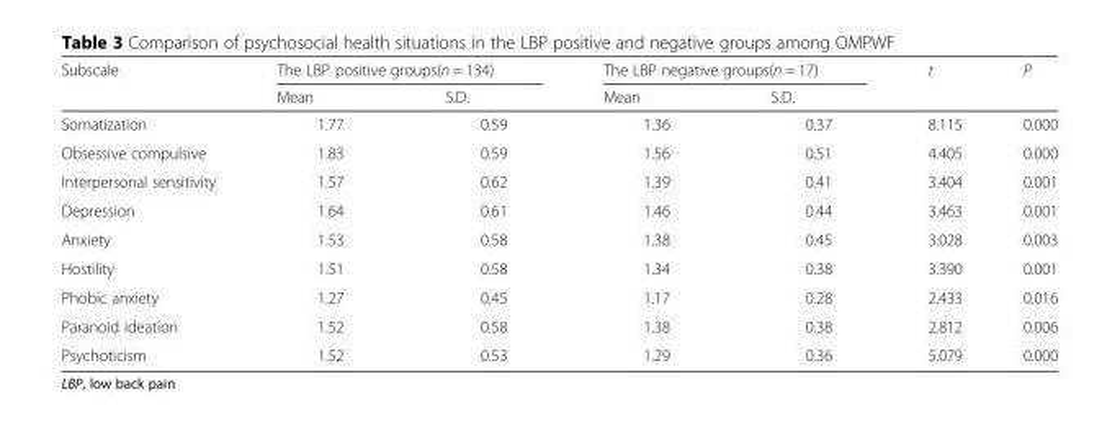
<table><thead><tr><td rowspan="2">Subscale</td><td colspan="2">The LBP positive groups(n = 134)</td><td colspan="2">The LBP negative groups(n = 17)</td><td rowspan="2">t</td><td rowspan="2">P</td></tr><tr><td>Mean</td><td>S.D.</td><td>Mean</td><td>S.D.</td></tr></thead><tbody><tr><td>Somatization</td><td>1.77</td><td>0.59</td><td>1.36</td><td>0.37</td><td>8.115</td><td>0.000</td></tr><tr><td>Obsessive compulsive</td><td>1.83</td><td>0.59</td><td>1.56</td><td>0.51</td><td>4.405</td><td>0.000</td></tr><tr><td>Interpersonal sensitivity</td><td>1.57</td><td>0.62</td><td>1.39</td><td>0.41</td><td>3.404</td><td>0.001</td></tr><tr><td>Depression</td><td>1.64</td><td>0.61</td><td>1.46</td><td>0.44</td><td>3.463</td><td>0.001</td></tr><tr><td>Anxiety</td><td>1.53</td><td>0.58</td><td>1.38</td><td>0.45</td><td>3.028</td><td>0.003</td></tr><tr><td>Hostility</td><td>1.51</td><td>0.58</td><td>1.34</td><td>0.38</td><td>3.390</td><td>0.001</td></tr><tr><td>Phobic anxiety</td><td>1.27</td><td>0.45</td><td>1.17</td><td>0.28</td><td>2.433</td><td>0.016</td></tr><tr><td>Paranoid ideation</td><td>1.52</td><td>0.58</td><td>1.38</td><td>0.38</td><td>2.812</td><td>0.006</td></tr><tr><td>Psychoticism</td><td>1.52</td><td>0.53</td><td>1.29</td><td>0.36</td><td>5.079</td><td>0.000</td></tr></tbody></table>